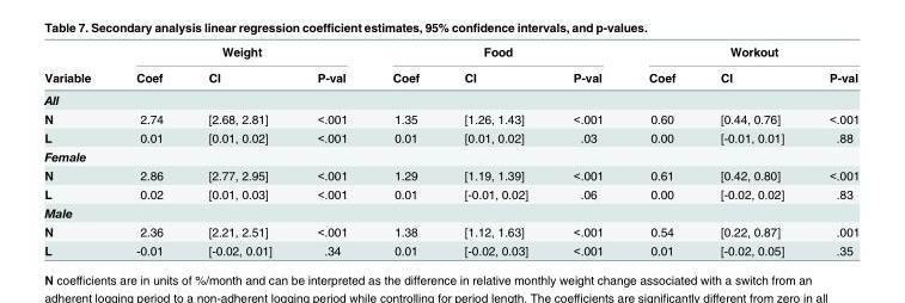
<table><thead><tr><td rowspan="2">Variable</td><td colspan="3">Weight</td><td colspan="3">Food</td><td colspan="3">Workout</td></tr><tr><td>Coef</td><td>CI</td><td>P-val</td><td>Coef</td><td>CI</td><td>P-val</td><td>Coef</td><td>CI</td><td>P-val</td></tr></thead><tbody><tr><td colspan="10">All</td></tr><tr><td>N</td><td>2.74</td><td>[2.68, 2.81]</td><td>&lt;.001</td><td>1.35</td><td>[1.26, 1.43]</td><td>&lt;.001</td><td>0.60</td><td>[0.44, 0.76]</td><td>&lt;.001</td></tr><tr><td>L</td><td>0.01</td><td>[0.01, 0.02]</td><td>&lt;.001</td><td>0.01</td><td>[0.01, 0.02]</td><td>.03</td><td>0.00</td><td>[-0.01, 0.01]</td><td>.88</td></tr><tr><td colspan="10">Female</td></tr><tr><td>N</td><td>2.86</td><td>[2.77, 2.95]</td><td>&lt;.001</td><td>1.29</td><td>[1.19, 1.39]</td><td>&lt;.001</td><td>0.61</td><td>[0.42, 0.80]</td><td>&lt;.001</td></tr><tr><td>L</td><td>0.02</td><td>[0.01, 0.03]</td><td>&lt;.001</td><td>0.01</td><td>[-0.01, 0.02]</td><td>.06</td><td>0.00</td><td>[-0.02, 0.02]</td><td>.83</td></tr><tr><td colspan="10">Male</td></tr><tr><td>N</td><td>2.36</td><td>[2.21, 2.51]</td><td>&lt;.001</td><td>1.38</td><td>[1.12, 1.63]</td><td>&lt;.001</td><td>0.54</td><td>[0.22, 0.87]</td><td>.001</td></tr><tr><td>L</td><td>-0.01</td><td>[-0.02, 0.01]</td><td>.34</td><td>0.01</td><td>[-0.02, 0.03]</td><td>&lt;.001</td><td>0.01</td><td>[-0.02, 0.05]</td><td>.35</td></tr></tbody></table>